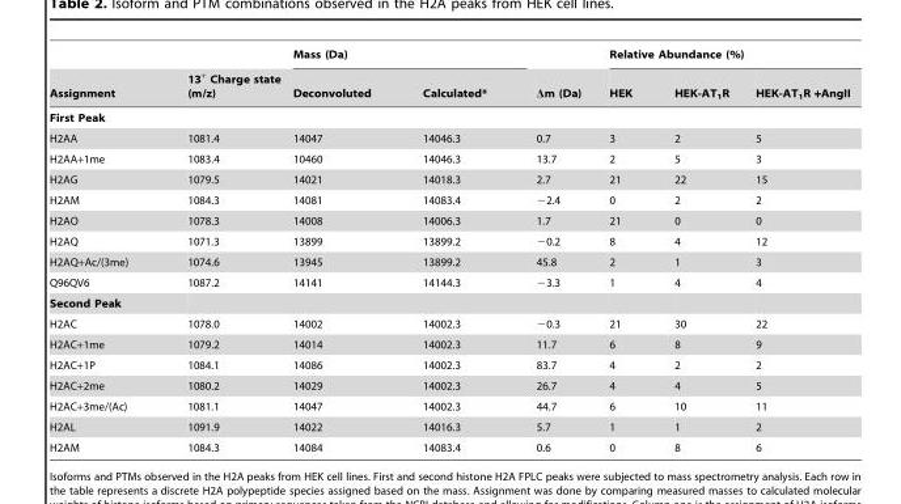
<table><thead><tr><td rowspan="2">Assignment</td><td rowspan="2">13<sup>+</sup> Charge state (m/z)</td><td colspan="2">Mass (Da)</td><td rowspan="2">Δm (Da)</td><td colspan="3">Relative Abundance (%)</td></tr><tr><td>Deconvoluted</td><td>Calculated*</td><td>HEK</td><td>HEK-AT<sub>1</sub>R</td><td>HEK-AT<sub>1</sub>R +AngII</td></tr></thead><tbody><tr><td colspan="8">First Peak</td></tr><tr><td>H2AA</td><td>1081.4</td><td>14047</td><td>14046.3</td><td>0.7</td><td>3</td><td>2</td><td>5</td></tr><tr><td>H2AA+1me</td><td>1083.4</td><td>10460</td><td>14046.3</td><td>13.7</td><td>2</td><td>5</td><td>3</td></tr><tr><td>H2AG</td><td>1079.5</td><td>14021</td><td>14018.3</td><td>2.7</td><td>21</td><td>22</td><td>15</td></tr><tr><td>H2AM</td><td>1084.3</td><td>14081</td><td>14083.4</td><td>−2.4</td><td>0</td><td>2</td><td>2</td></tr><tr><td>H2AO</td><td>1078.3</td><td>14008</td><td>14006.3</td><td>1.7</td><td>21</td><td>0</td><td>0</td></tr><tr><td>H2AQ</td><td>1071.3</td><td>13899</td><td>13899.2</td><td>−0.2</td><td>8</td><td>4</td><td>12</td></tr><tr><td>H2AQ+Ac/(3me)</td><td>1074.6</td><td>13945</td><td>13899.2</td><td>45.8</td><td>2</td><td>1</td><td>3</td></tr><tr><td>Q96QV6</td><td>1087.2</td><td>14141</td><td>14144.3</td><td>−3.3</td><td>1</td><td>4</td><td>4</td></tr><tr><td colspan="8">Second Peak</td></tr><tr><td>H2AC</td><td>1078.0</td><td>14002</td><td>14002.3</td><td>−0.3</td><td>21</td><td>30</td><td>22</td></tr><tr><td>H2AC+1me</td><td>1079.2</td><td>14014</td><td>14002.3</td><td>11.7</td><td>6</td><td>8</td><td>9</td></tr><tr><td>H2AC+1P</td><td>1084.1</td><td>14086</td><td>14002.3</td><td>83.7</td><td>4</td><td>2</td><td>2</td></tr><tr><td>H2AC+2me</td><td>1080.2</td><td>14029</td><td>14002.3</td><td>26.7</td><td>4</td><td>4</td><td>5</td></tr><tr><td>H2AC+3me/(Ac)</td><td>1081.1</td><td>14047</td><td>14002.3</td><td>44.7</td><td>6</td><td>10</td><td>11</td></tr><tr><td>H2AL</td><td>1091.9</td><td>14022</td><td>14016.3</td><td>5.7</td><td>1</td><td>1</td><td>2</td></tr><tr><td>H2AM</td><td>1084.3</td><td>14084</td><td>14083.4</td><td>0.6</td><td>0</td><td>8</td><td>6</td></tr></tbody></table>